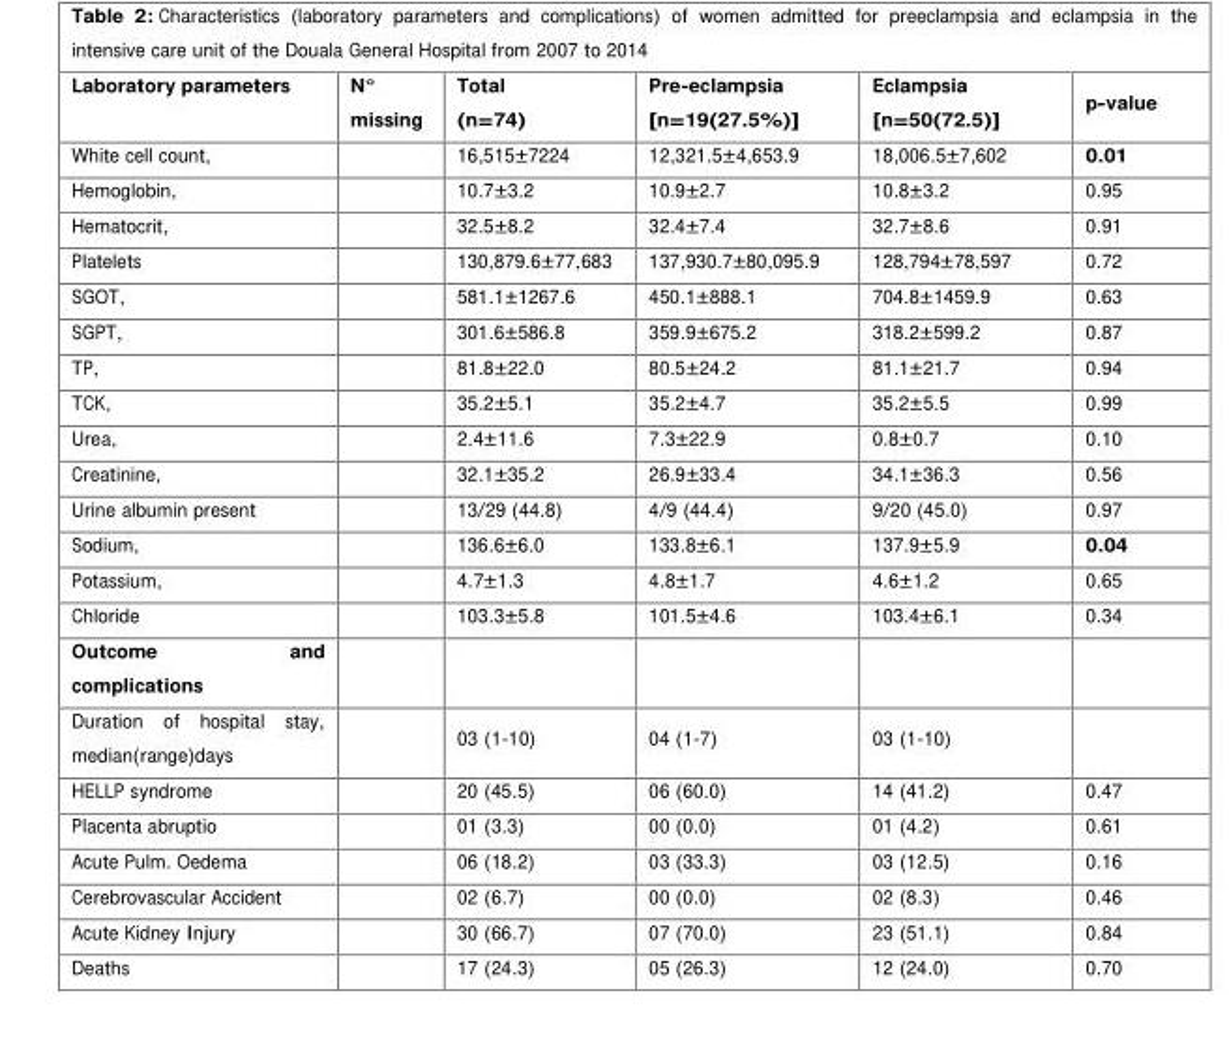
<table><thead><tr><td>Laboratory parameters</td><td>N° missing</td><td>Total (n=74)</td><td>Pre-eclampsia [n=19(27.5%)]</td><td>Eclampsia [n=50(72.5)]</td><td>p-value</td></tr></thead><tbody><tr><td>White cell count,</td><td></td><td>16,515±7224</td><td>12,321.5±4,653.9</td><td>18,006.5±7,602</td><td>0.01</td></tr><tr><td>Hemoglobin,</td><td></td><td>10.7±3.2</td><td>10.9±2.7</td><td>10.8±3.2</td><td>0.95</td></tr><tr><td>Hematocrit,</td><td></td><td>32.5±8.2</td><td>32.4±7.4</td><td>32.7±8.6</td><td>0.91</td></tr><tr><td>Platelets</td><td></td><td>130,879.6±77,683</td><td>137,930.7±80,095.9</td><td>128,794±78,597</td><td>0.72</td></tr><tr><td>SGOT,</td><td></td><td>581.1±1267.6</td><td>450.1±888.1</td><td>704.8±1459.9</td><td>0.63</td></tr><tr><td>SGPT,</td><td></td><td>301.6±586.8</td><td>359.9±675.2</td><td>318.2±599.2</td><td>0.87</td></tr><tr><td>TP,</td><td></td><td>81.8±22.0</td><td>80.5±24.2</td><td>81.1±21.7</td><td>0.94</td></tr><tr><td>TCK,</td><td></td><td>35.2±5.1</td><td>35.2±4.7</td><td>35.2±5.5</td><td>0.99</td></tr><tr><td>Urea,</td><td></td><td>2.4±11.6</td><td>7.3±22.9</td><td>0.8±0.7</td><td>0.10</td></tr><tr><td>Creatinine,</td><td></td><td>32.1±35.2</td><td>26.9±33.4</td><td>34.1±36.3</td><td>0.56</td></tr><tr><td>Urine albumin present</td><td></td><td>13/29 (44.8)</td><td>4/9 (44.4)</td><td>9/20 (45.0)</td><td>0.97</td></tr><tr><td>Sodium,</td><td></td><td>136.6±6.0</td><td>133.8±6.1</td><td>137.9±5.9</td><td>0.04</td></tr><tr><td>Potassium,</td><td></td><td>4.7±1.3</td><td>4.8±1.7</td><td>4.6±1.2</td><td>0.65</td></tr><tr><td>Chloride</td><td></td><td>103.3±5.8</td><td>101.5±4.6</td><td>103.4±6.1</td><td>0.34</td></tr><tr><td colspan="6">Outcome and complications</td></tr><tr><td>Duration of hospital stay, median(range)days</td><td></td><td>03 (1-10)</td><td>04 (1-7)</td><td>03 (1-10)</td><td></td></tr><tr><td>HELLP syndrome</td><td></td><td>20 (45.5)</td><td>06 (60.0)</td><td>14 (41.2)</td><td>0.47</td></tr><tr><td>Placenta abruptio</td><td></td><td>01 (3.3)</td><td>00 (0.0)</td><td>01 (4.2)</td><td>0.61</td></tr><tr><td>Acute Pulm. Oedema</td><td></td><td>06 (18.2)</td><td>03 (33.3)</td><td>03 (12.5)</td><td>0.16</td></tr><tr><td>Cerebrovascular Accident</td><td></td><td>02 (6.7)</td><td>00 (0.0)</td><td>02 (8.3)</td><td>0.46</td></tr><tr><td>Acute Kidney Injury</td><td></td><td>30 (66.7)</td><td>07 (70.0)</td><td>23 (51.1)</td><td>0.84</td></tr><tr><td>Deaths</td><td></td><td>17 (24.3)</td><td>05 (26.3)</td><td>12 (24.0)</td><td>0.70</td></tr></tbody></table>